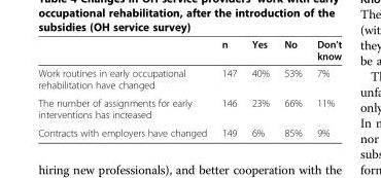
<table><thead><tr><td></td><td>n</td><td>Yes</td><td>No</td><td>Don’t know</td></tr></thead><tbody><tr><td>Work routines in early occupational rehabilitation have changed</td><td>147</td><td>40%</td><td>53%</td><td>7%</td></tr><tr><td>The number of assignments for early interventions has increased</td><td>146</td><td>23%</td><td>66%</td><td>11%</td></tr><tr><td>Contracts with employers have changed</td><td>149</td><td>6%</td><td>85%</td><td>9%</td></tr></tbody></table>